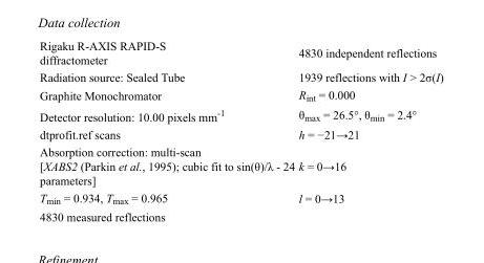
<table><tbody><tr><td>Rigaku R-AXIS RAPID-S diffractometer</td><td>4830 independent reflections</td></tr><tr><td>Radiation source: Sealed Tube</td><td>1939 reflections with I &gt; 2σ(I)</td></tr><tr><td>Graphite Monochromator</td><td>R<sub>int</sub> = 0.000</td></tr><tr><td>Detector resolution: 10.00 pixels mm<sup>-1</sup></td><td>θ<sub>max</sub> = 26.5°, θ<sub>min</sub> = 2.4°</td></tr><tr><td>dtprofit.ref scans</td><td>h = −21→21</td></tr><tr><td>Absorption correction: multi-scan [XABS2 (Parkin et al., 1995); cubic fit to sin(θ)/λ - 24 parameters]</td><td>k = 0→16</td></tr><tr><td>T<sub>min</sub> = 0.934, T<sub>max</sub> = 0.965</td><td>l = 0→13</td></tr><tr><td>4830 measured reflections</td><td></td></tr></tbody></table>